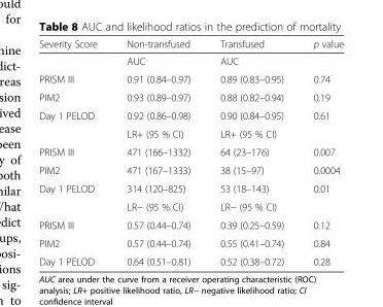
<table><thead><tr><td>Severity Score</td><td>Non-transfused</td><td>Transfused</td><td>p value</td></tr></thead><tbody><tr><td></td><td>AUC</td><td>AUC</td><td></td></tr><tr><td>PRISM III</td><td>0.91 (0.84–0.97)</td><td>0.89 (0.83–0.95)</td><td>0.74</td></tr><tr><td>PIM2</td><td>0.93 (0.89–0.97)</td><td>0.88 (0.82–0.94)</td><td>0.19</td></tr><tr><td rowspan="2">Day 1 PELOD</td><td>0.92 (0.86–0.98)</td><td>0.90 (0.84–0.95)</td><td>0.61</td></tr><tr><td>LR+ (95 % CI)</td><td>LR+ (95 % CI)</td><td></td></tr><tr><td>PRISM III</td><td>471 (166–1332)</td><td>64 (23–176)</td><td>0.007</td></tr><tr><td>PIM2</td><td>471 (167–1333)</td><td>38 (15–97)</td><td>0.0004</td></tr><tr><td rowspan="2">Day 1 PELOD</td><td>314 (120–825)</td><td>53 (18–143)</td><td>0.01</td></tr><tr><td>LR− (95 % CI)</td><td>LR− (95 % CI)</td><td></td></tr><tr><td>PRISM III</td><td>0.57 (0.44–0.74)</td><td>0.39 (0.25–0.59)</td><td>0.12</td></tr><tr><td>PIM2</td><td>0.57 (0.44–0.74)</td><td>0.55 (0.41–0.74)</td><td>0.84</td></tr><tr><td>Day 1 PELOD</td><td>0.64 (0.51–0.81)</td><td>0.52 (0.38–0.72)</td><td>0.28</td></tr></tbody></table>